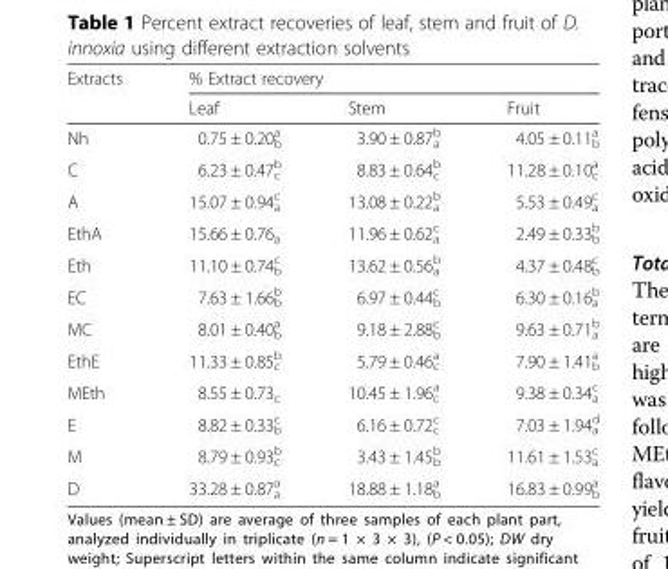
<table><thead><tr><td rowspan="2">Extracts</td><td colspan="3">% Extract recovery</td></tr><tr><td>Leaf</td><td>Stem</td><td>Fruit</td></tr></thead><tbody><tr><td>Nh</td><td>0.75 ± 0.20<sub>b</sub> <sup>a</sup></td><td>3.90 ± 0.87<sub>a</sub> <sup>b</sup></td><td>4.05 ± 0.11<sub>b</sub> <sup>a</sup></td></tr><tr><td>C</td><td>6.23 ± 0.47<sub>c</sub> <sup>b</sup></td><td>8.83 ± 0.64<sub>c</sub> <sup>b</sup></td><td>11.28 ± 0.10<sub>c</sub> <sup>a</sup></td></tr><tr><td>A</td><td>15.07 ± 0.94<sub>a</sub> <sup>c</sup></td><td>13.08 ± 0.22<sub>a</sub> <sup>b</sup></td><td>5.53 ± 0.49<sub>a</sub> <sup>c</sup></td></tr><tr><td>EthA</td><td>15.66 ± 0.76<sub>a</sub></td><td>11.96 ± 0.62<sub>a</sub> <sup>c</sup></td><td>2.49 ± 0.33<sub>b</sub> <sup>b</sup></td></tr><tr><td>Eth</td><td>11.10 ± 0.74<sub>b</sub> <sup>c</sup></td><td>13.62 ± 0.56<sub>a</sub> <sup>b</sup></td><td>4.37 ± 0.48<sub>b</sub> <sup>c</sup></td></tr><tr><td>EC</td><td>7.63 ± 1.66<sub>b</sub> <sup>b</sup></td><td>6.97 ± 0.44<sub>b</sub> <sup>c</sup></td><td>6.30 ± 0.16<sub>a</sub> <sup>b</sup></td></tr><tr><td>MC</td><td>8.01 ± 0.40<sub>b</sub> <sup>a</sup></td><td>9.18 ± 2.88<sub>b</sub> <sup>c</sup></td><td>9.63 ± 0.71<sub>a</sub> <sup>b</sup></td></tr><tr><td>EthE</td><td>11.33 ± 0.85<sub>c</sub> <sup>b</sup></td><td>5.79 ± 0.46<sub>c</sub> <sup>a</sup></td><td>7.90 ± 1.41<sub>b</sub> <sup>a</sup></td></tr><tr><td>MEth</td><td>8.55 ± 0.73<sub>c</sub></td><td>10.45 ± 1.96<sub>c</sub> <sup>a</sup></td><td>9.38 ± 0.34<sub>a</sub> <sup>c</sup></td></tr><tr><td>E</td><td>8.82 ± 0.33<sub>b</sub> <sup>c</sup></td><td>6.16 ± 0.72<sub>c</sub> <sup>c</sup></td><td>7.03 ± 1.94<sub>a</sub> <sup>d</sup></td></tr><tr><td>M</td><td>8.79 ± 0.93<sub>c</sub> <sup>b</sup></td><td>3.43 ± 1.45<sub>b</sub> <sup>b</sup></td><td>11.61 ± 1.53<sub>a</sub> <sup>c</sup></td></tr><tr><td>D</td><td>33.28 ± 0.87<sub>a</sub> <sup>a</sup></td><td>18.88 ± 1.18<sub>b</sub> <sup>a</sup></td><td>16.83 ± 0.99<sub>b</sub> <sup>a</sup></td></tr></tbody></table>